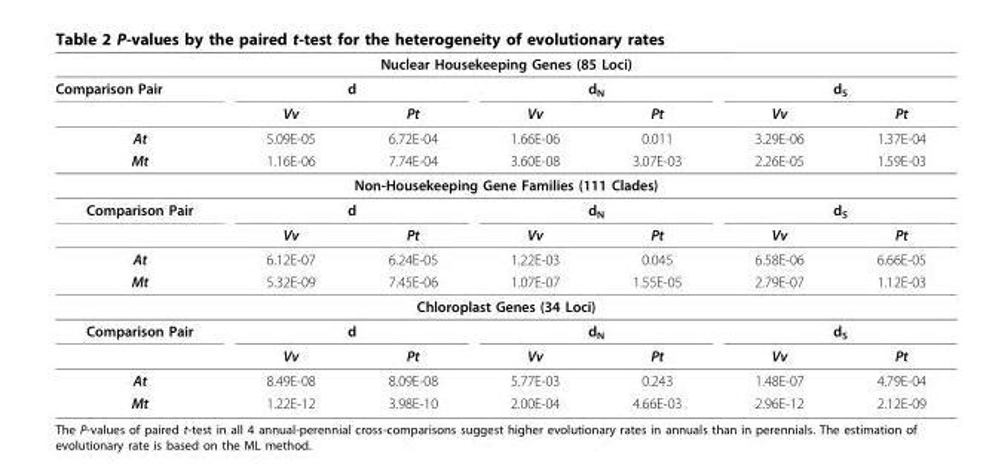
<table><thead><tr><td colspan="7">Nuclear Housekeeping Genes (85 Loci)</td></tr><tr><td rowspan="2">Comparison Pair</td><td colspan="2">d</td><td colspan="2">d<sub>N</sub></td><td colspan="2">d<sub>S</sub></td></tr><tr><td>Vv</td><td>Pt</td><td>Vv</td><td>Pt</td><td>Vv</td><td>Pt</td></tr></thead><tbody><tr><td>At</td><td>5.09E-05</td><td>6.72E-04</td><td>1.66E-06</td><td>0.011</td><td>3.29E-06</td><td>1.37E-04</td></tr><tr><td>Mt</td><td>1.16E-06</td><td>7.74E-04</td><td>3.60E-08</td><td>3.07E-03</td><td>2.26E-05</td><td>1.59E-03</td></tr><tr><td colspan="7">Non-Housekeeping Gene Families (111 Clades)</td></tr><tr><td rowspan="2">Comparison Pair</td><td colspan="2">d</td><td colspan="2">d<sub>N</sub></td><td colspan="2">d<sub>S</sub></td></tr><tr><td>Vv</td><td>Pt</td><td>Vv</td><td>Pt</td><td>Vv</td><td>Pt</td></tr><tr><td>At</td><td>6.12E-07</td><td>6.24E-05</td><td>1.22E-03</td><td>0.045</td><td>6.58E-06</td><td>6.66E-05</td></tr><tr><td>Mt</td><td>5.32E-09</td><td>7.45E-06</td><td>1.07E-07</td><td>1.55E-05</td><td>2.79E-07</td><td>1.12E-03</td></tr><tr><td colspan="7">Chloroplast Genes (34 Loci)</td></tr><tr><td rowspan="2">Comparison Pair</td><td colspan="2">d</td><td colspan="2">d<sub>N</sub></td><td colspan="2">d<sub>S</sub></td></tr><tr><td>Vv</td><td>Pt</td><td>Vv</td><td>Pt</td><td>Vv</td><td>Pt</td></tr><tr><td>At</td><td>8.49E-08</td><td>8.09E-08</td><td>5.77E-03</td><td>0.243</td><td>1.48E-07</td><td>4.79E-04</td></tr><tr><td>Mt</td><td>1.22E-12</td><td>3.98E-10</td><td>2.00E-04</td><td>4.66E-03</td><td>2.96E-12</td><td>2.12E-09</td></tr></tbody></table>